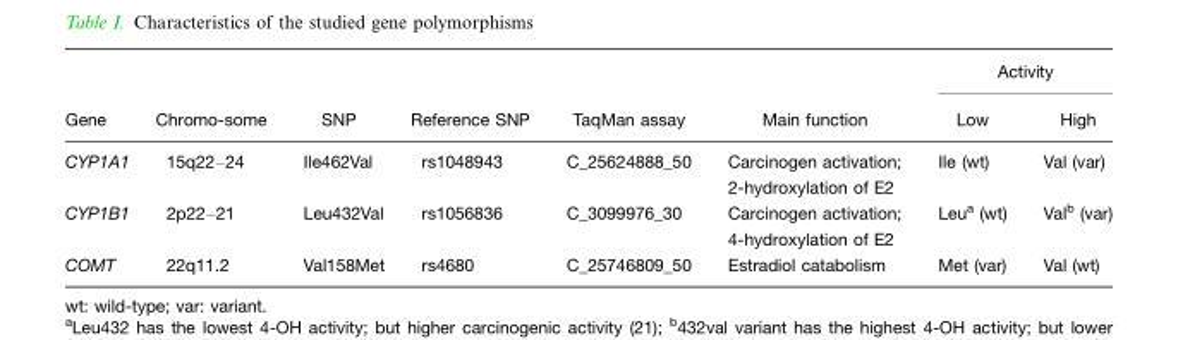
<table><thead><tr><td rowspan="2">Gene</td><td rowspan="2">Chromo-some</td><td rowspan="2">SNP</td><td rowspan="2">Reference SNP</td><td rowspan="2">TaqMan assay</td><td rowspan="2">Main function</td><td colspan="2">Activity</td></tr><tr><td>Low</td><td>High</td></tr></thead><tbody><tr><td>CYP1A1</td><td>15q22–24</td><td>Ile462Val</td><td>rs1048943</td><td>C_25624888_50</td><td>Carcinogen activation; 2-hydroxylation of E2</td><td>Ile (wt)</td><td>Val (var)</td></tr><tr><td>CYP1B1</td><td>2p22–21</td><td>Leu432Val</td><td>rs1056836</td><td>C_3099976_30</td><td>Carcinogen activation; 4-hydroxylation of E2</td><td>Leu<sup>a</sup> (wt)</td><td>Val<sup>b</sup> (var)</td></tr><tr><td>COMT</td><td>22q11.2</td><td>Val158Met</td><td>rs4680</td><td>C_25746809_50</td><td>Estradiol catabolism</td><td>Met (var)</td><td>Val (wt)</td></tr></tbody></table>